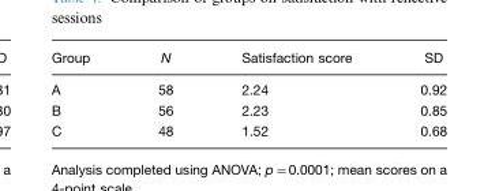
<table><thead><tr><td>Group</td><td>N</td><td>Satisfaction score</td><td>SD</td></tr></thead><tbody><tr><td>A</td><td>58</td><td>2.24</td><td>0.92</td></tr><tr><td>B</td><td>56</td><td>2.23</td><td>0.85</td></tr><tr><td>C</td><td>48</td><td>1.52</td><td>0.68</td></tr></tbody></table>